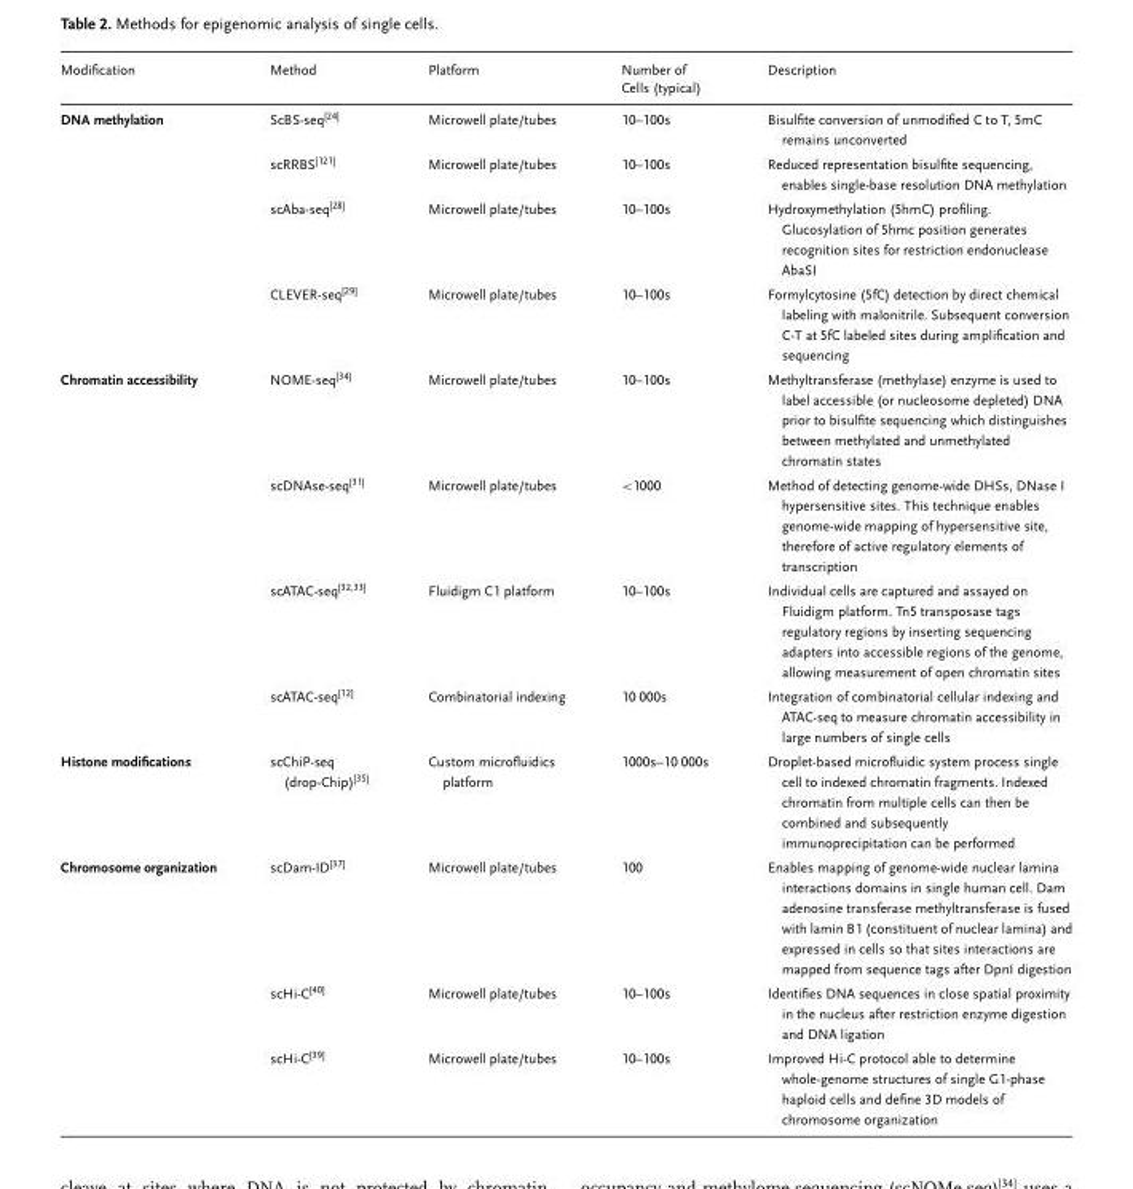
<table><thead><tr><td>Modification</td><td>Method</td><td>Platform</td><td>Number of Cells (typical)</td><td>Description</td></tr></thead><tbody><tr><td rowspan="4">DNA methylation</td><td>ScBS-seq[24]</td><td>Microwell plate/tubes</td><td>10–100s</td><td>Bisulfite conversion of unmodified C to T, 5mC remains unconverted</td></tr><tr><td>scRRBS[121]</td><td>Microwell plate/tubes</td><td>10–100s</td><td>Reduced representation bisulfite sequencing, enables single-base resolution DNA methylation</td></tr><tr><td>scAba-seq[28]</td><td>Microwell plate/tubes</td><td>10–100s</td><td>Hydroxymethylation (5hmC) profiling. Glucosylation of 5hmc position generates recognition sites for restriction endonuclease AbaSI</td></tr><tr><td>CLEVER-seq[29]</td><td>Microwell plate/tubes</td><td>10–100s</td><td>Formylcytosine (5fC) detection by direct chemical labeling with malonitrile. Subsequent conversion C-T at 5fC labeled sites during amplification and sequencing</td></tr><tr><td rowspan="4">Chromatin accessibility</td><td>NOME-seq[34]</td><td>Microwell plate/tubes</td><td>10–100s</td><td>Methyltransferase (methylase) enzyme is used to label accessible (or nucleosome depleted) DNA prior to bisulfite sequencing which distinguishes between methylated and unmethylated chromatin states</td></tr><tr><td>scDNAse-seq[31]</td><td>Microwell plate/tubes</td><td>&lt;1000</td><td>Method of detecting genome-wide DHSs, DNase I hypersensitive sites. This technique enables genome-wide mapping of hypersensitive site, therefore of active regulatory elements of transcription</td></tr><tr><td>scATAC-seq[32,33]</td><td>Fluidigm C1 platform</td><td>10–100s</td><td>Individual cells are captured and assayed on Fluidigm platform. Tn5 transposase tags regulatory regions by inserting sequencing adapters into accessible regions of the genome, allowing measurement of open chromatin sites</td></tr><tr><td>scATAC-seq[12]</td><td>Combinatorial indexing</td><td>10 000s</td><td>Integration of combinatorial cellular indexing and ATAC-seq to measure chromatin accessibility in large numbers of single cells</td></tr><tr><td>Histone modifications</td><td>scChiP-seq (drop-Chip)[35]</td><td>Custom microfluidics platform</td><td>1000s–10 000s</td><td>Droplet-based microfluidic system process single cell to indexed chromatin fragments. Indexed chromatin from multiple cells can then be combined and subsequently immunoprecipitation can be performed</td></tr><tr><td rowspan="3">Chromosome organization</td><td>scDam-ID[37]</td><td>Microwell plate/tubes</td><td>100</td><td>Enables mapping of genome-wide nuclear lamina interactions domains in single human cell. Dam adenosine transferase methyltransferase is fused with lamin B1 (constituent of nuclear lamina) and expressed in cells so that sites interactions are mapped from sequence tags after DpnI digestion</td></tr><tr><td>scHi-C[40]</td><td>Microwell plate/tubes</td><td>10–100s</td><td>Identifies DNA sequences in close spatial proximity in the nucleus after restriction enzyme digestion and DNA ligation</td></tr><tr><td>scHi-C[39]</td><td>Microwell plate/tubes</td><td>10–100s</td><td>Improved Hi-C protocol able to determine whole-genome structures of single G1-phase haploid cells and define 3D models of chromosome organization</td></tr></tbody></table>